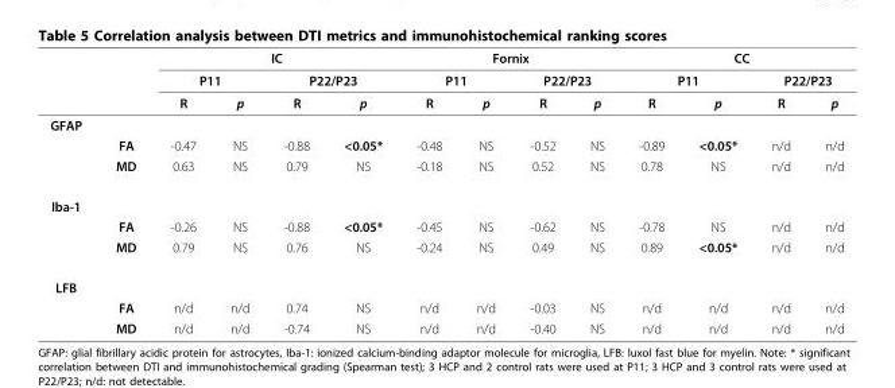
<table><thead><tr><td rowspan="3"></td><td rowspan="3"></td><td colspan="4">IC</td><td colspan="4">Fornix</td><td colspan="4">CC</td></tr><tr><td colspan="2">P11</td><td colspan="2">P22/P23</td><td colspan="2">P11</td><td colspan="2">P22/P23</td><td colspan="2">P11</td><td colspan="2">P22/P23</td></tr><tr><td>R</td><td>p</td><td>R</td><td>p</td><td>R</td><td>p</td><td>R</td><td>p</td><td>R</td><td>p</td><td>R</td><td>p</td></tr></thead><tbody><tr><td colspan="14">GFAP</td></tr><tr><td></td><td>FA</td><td>-0.47</td><td>NS</td><td>-0.88</td><td>&lt;0.05*</td><td>-0.48</td><td>NS</td><td>-0.52</td><td>NS</td><td>-0.89</td><td>&lt;0.05*</td><td>n/d</td><td>n/d</td></tr><tr><td></td><td>MD</td><td>0.63</td><td>NS</td><td>0.79</td><td>NS</td><td>-0.18</td><td>NS</td><td>0.52</td><td>NS</td><td>0.78</td><td>NS</td><td>n/d</td><td>n/d</td></tr><tr><td colspan="14">Iba-1</td></tr><tr><td></td><td>FA</td><td>-0.26</td><td>NS</td><td>-0.88</td><td>&lt;0.05*</td><td>-0.45</td><td>NS</td><td>-0.62</td><td>NS</td><td>-0.78</td><td>NS</td><td>n/d</td><td>n/d</td></tr><tr><td></td><td>MD</td><td>0.79</td><td>NS</td><td>0.76</td><td>NS</td><td>-0.24</td><td>NS</td><td>0.49</td><td>NS</td><td>0.89</td><td>&lt;0.05*</td><td>n/d</td><td>n/d</td></tr><tr><td colspan="14">LFB</td></tr><tr><td></td><td>FA</td><td>n/d</td><td>n/d</td><td>0.74</td><td>NS</td><td>n/d</td><td>n/d</td><td>-0.03</td><td>NS</td><td>n/d</td><td>n/d</td><td>n/d</td><td>n/d</td></tr><tr><td></td><td>MD</td><td>n/d</td><td>n/d</td><td>-0.74</td><td>NS</td><td>n/d</td><td>n/d</td><td>-0.40</td><td>NS</td><td>n/d</td><td>n/d</td><td>n/d</td><td>n/d</td></tr></tbody></table>